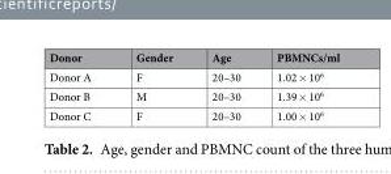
<table><thead><tr><td>Donor</td><td>Gender</td><td>Age</td><td>PBMNCs/ml</td></tr></thead><tbody><tr><td>Donor A</td><td>F</td><td>20–30</td><td>1.02 × 10<sup>6</sup></td></tr><tr><td>Donor B</td><td>M</td><td>20–30</td><td>1.39 × 10<sup>6</sup></td></tr><tr><td>Donor C</td><td>F</td><td>20–30</td><td>1.00 × 10<sup>6</sup></td></tr></tbody></table>